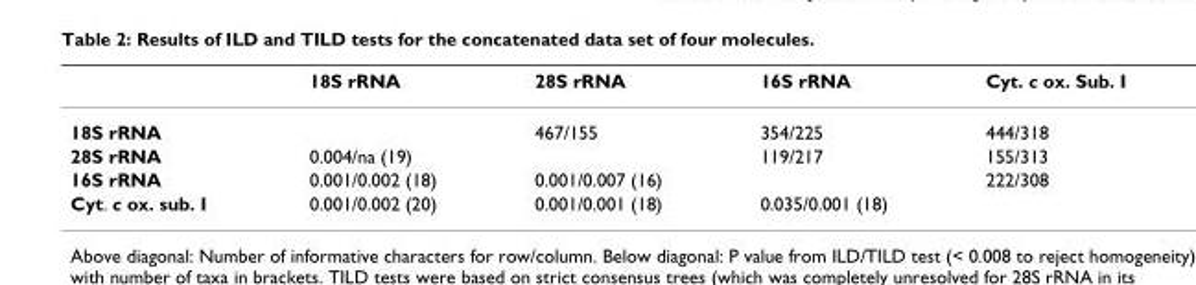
<table><thead><tr><td></td><td>18S rRNA</td><td>28S rRNA</td><td>16S rRNA</td><td>Cyt. c ox. Sub. I</td></tr></thead><tbody><tr><td>18S rRNA</td><td></td><td>467/155</td><td>354/225</td><td>444/318</td></tr><tr><td>28S rRNA</td><td>0.004/na (19)</td><td></td><td>119/217</td><td>155/313</td></tr><tr><td>16S rRNA</td><td>0.001/0.002 (18)</td><td>0.001/0.007 (16)</td><td></td><td>222/308</td></tr><tr><td>Cyt. c ox. sub. I</td><td>0.001/0.002 (20)</td><td>0.001/0.001 (18)</td><td>0.035/0.001 (18)</td><td></td></tr></tbody></table>